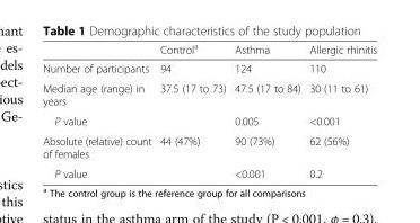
<table><thead><tr><td></td><td>Control<sup>a</sup></td><td>Asthma</td><td>Allergic rhinitis</td></tr></thead><tbody><tr><td>Number of participants</td><td>94</td><td>124</td><td>110</td></tr><tr><td>Median age (range) in years</td><td>37.5 (17 to 73)</td><td>47.5 (17 to 84)</td><td>30 (11 to 61)</td></tr><tr><td>P value</td><td></td><td>0.005</td><td>&lt;0.001</td></tr><tr><td>Absolute (relative) count of females</td><td>44 (47%)</td><td>90 (73%)</td><td>62 (56%)</td></tr><tr><td>P value</td><td></td><td>&lt;0.001</td><td>0.2</td></tr></tbody></table>